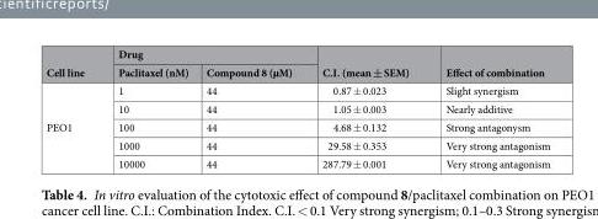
<table><thead><tr><td rowspan="2">Cell line</td><td colspan="2">Drug</td><td rowspan="2">C.I. (mean ± SEM)</td><td rowspan="2">Effect of combination</td></tr><tr><td>Paclitaxel (nM)</td><td>Compound 8 (µM)</td></tr></thead><tbody><tr><td rowspan="5">PEO1</td><td>1</td><td>44</td><td>0.87 ± 0.023</td><td>Slight synergism</td></tr><tr><td>10</td><td>44</td><td>1.05 ± 0.003</td><td>Nearly additive</td></tr><tr><td>100</td><td>44</td><td>4.68 ± 0.132</td><td>Strong antagonysm</td></tr><tr><td>1000</td><td>44</td><td>29.58 ± 0.353</td><td>Very strong antagonism</td></tr><tr><td>10000</td><td>44</td><td>287.79 ± 0.001</td><td>Very strong antagonism</td></tr></tbody></table>